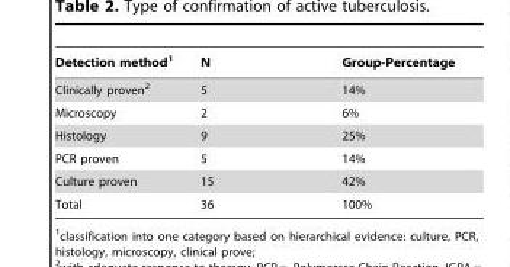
<table><thead><tr><td>Detection method<sup>1</sup></td><td>N</td><td>Group-Percentage</td></tr></thead><tbody><tr><td>Clinically proven<sup>2</sup></td><td>5</td><td>14%</td></tr><tr><td>Microscopy</td><td>2</td><td>6%</td></tr><tr><td>Histology</td><td>9</td><td>25%</td></tr><tr><td>PCR proven</td><td>5</td><td>14%</td></tr><tr><td>Culture proven</td><td>15</td><td>42%</td></tr><tr><td>Total</td><td>36</td><td>100%</td></tr></tbody></table>